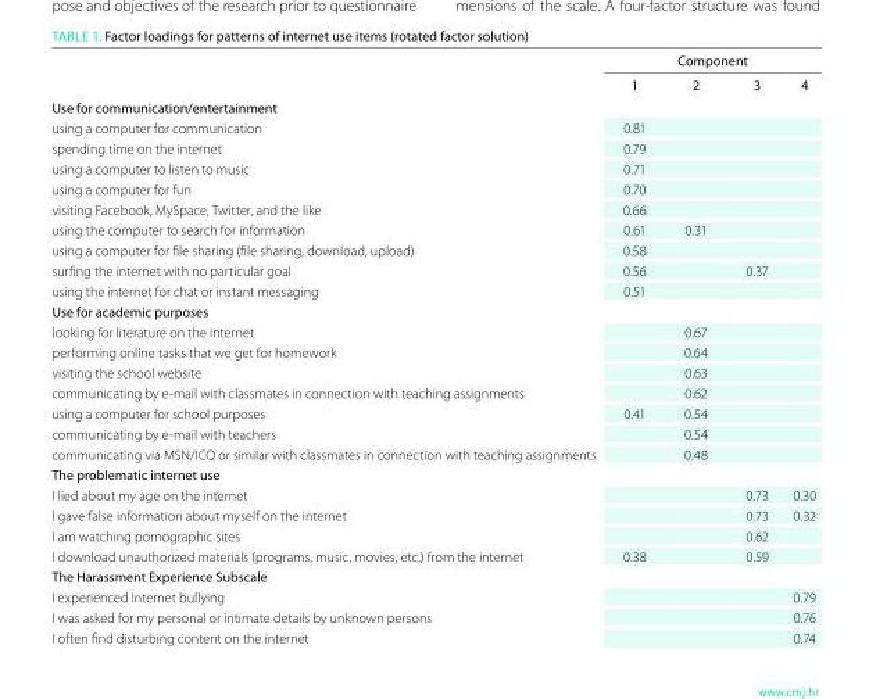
<table><thead><tr><td rowspan="2"></td><td colspan="4">Component</td></tr><tr><td>1</td><td>2</td><td>3</td><td>4</td></tr></thead><tbody><tr><td colspan="5">Use for communication/entertainment</td></tr><tr><td>using a computer for communication</td><td>0.81</td><td></td><td></td><td></td></tr><tr><td>spending time on the internet</td><td>0.79</td><td></td><td></td><td></td></tr><tr><td>using a computer to listen to music</td><td>0.71</td><td></td><td></td><td></td></tr><tr><td>using a computer for fun</td><td>0.70</td><td></td><td></td><td></td></tr><tr><td>visiting Facebook, MySpace, Twitter, and the like</td><td>0.66</td><td></td><td></td><td></td></tr><tr><td>using the computer to search for information</td><td>0.61</td><td>0.31</td><td></td><td></td></tr><tr><td>using a computer for file sharing (file sharing, download, upload)</td><td>0.58</td><td></td><td></td><td></td></tr><tr><td>surfing the internet with no particular goal</td><td>0.56</td><td></td><td>0.37</td><td></td></tr><tr><td>using the internet for chat or instant messaging</td><td>0.51</td><td></td><td></td><td></td></tr><tr><td colspan="5">Use for academic purposes</td></tr><tr><td>looking for literature on the internet</td><td></td><td>0.67</td><td></td><td></td></tr><tr><td>performing online tasks that we get for homework</td><td></td><td>0.64</td><td></td><td></td></tr><tr><td>visiting the school website</td><td></td><td>0.63</td><td></td><td></td></tr><tr><td>communicating by e-mail with classmates in connection with teaching assignments</td><td></td><td>0.62</td><td></td><td></td></tr><tr><td>using a computer for school purposes</td><td>0.41</td><td>0.54</td><td></td><td></td></tr><tr><td>communicating by e-mail with teachers</td><td></td><td>0.54</td><td></td><td></td></tr><tr><td>communicating via MSN/ICQ or similar with classmates in connection with teaching assignments</td><td></td><td>0.48</td><td></td><td></td></tr><tr><td colspan="5">the problematic internet use</td></tr><tr><td>I lied about my age on the internet</td><td></td><td></td><td>0.73</td><td>0.30</td></tr><tr><td>I gave false information about myself on the internet</td><td></td><td></td><td>0.73</td><td>0.32</td></tr><tr><td>I am watching pornographic sites</td><td></td><td></td><td>0.62</td><td></td></tr><tr><td>I download unauthorized materials (programs, music, movies, etc.) from the internet</td><td>0.38</td><td></td><td>0.59</td><td></td></tr><tr><td colspan="5">the harassment experience subscale</td></tr><tr><td>I experienced Internet bullying</td><td></td><td></td><td></td><td>0.79</td></tr><tr><td>I was asked for my personal or intimate details by unknown persons</td><td></td><td></td><td></td><td>0.76</td></tr><tr><td>I often find disturbing content on the internet</td><td></td><td></td><td></td><td>0.74</td></tr></tbody></table>